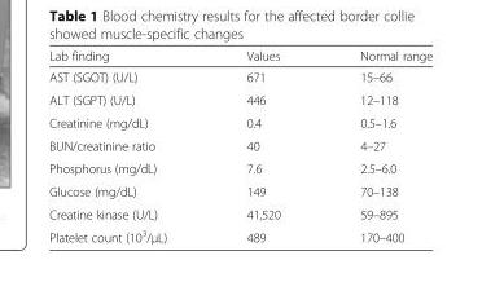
<table><thead><tr><td>Lab finding</td><td>Values</td><td>Normal range</td></tr></thead><tbody><tr><td>AST (SGOT) (U/L)</td><td>671</td><td>15–66</td></tr><tr><td>ALT (SGPT) (U/L)</td><td>446</td><td>12–118</td></tr><tr><td>Creatinine (mg/dL)</td><td>0.4</td><td>0.5–1.6</td></tr><tr><td>BUN/creatinine ratio</td><td>40</td><td>4–27</td></tr><tr><td>Phosphorus (mg/dL)</td><td>7.6</td><td>2.5–6.0</td></tr><tr><td>Glucose (mg/dL)</td><td>149</td><td>70–138</td></tr><tr><td>Creatine kinase (U/L)</td><td>41,520</td><td>59–895</td></tr><tr><td>Platelet count (10<sup>3</sup>/μL)</td><td>489</td><td>170–400</td></tr></tbody></table>